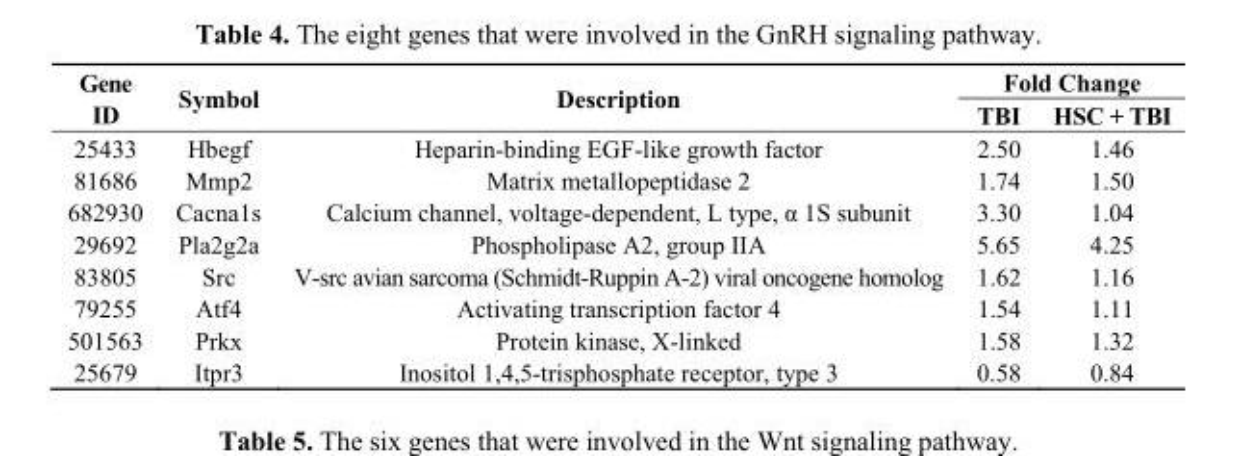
<table><thead><tr><td rowspan="2">Gene ID</td><td rowspan="2">Symbol</td><td rowspan="2">Description</td><td colspan="2">Fold Change</td></tr><tr><td>TBI</td><td>HSC + TBI</td></tr></thead><tbody><tr><td>25433</td><td>Hbegf</td><td>Heparin-binding EGF-like growth factor</td><td>2.50</td><td>1.46</td></tr><tr><td>81686</td><td>Mmp2</td><td>Matrix metallopeptidase 2</td><td>1.74</td><td>1.50</td></tr><tr><td>682930</td><td>Cacna1s</td><td>Calcium channel, voltage-dependent, L type, α 1S subunit</td><td>3.30</td><td>1.04</td></tr><tr><td>29692</td><td>Pla2g2a</td><td>Phospholipase A2, group IIA</td><td>5.65</td><td>4.25</td></tr><tr><td>83805</td><td>Src</td><td>V-src avian sarcoma (Schmidt-Ruppin A-2) viral oncogene homolog</td><td>1.62</td><td>1.16</td></tr><tr><td>79255</td><td>Atf4</td><td>Activating transcription factor 4</td><td>1.54</td><td>1.11</td></tr><tr><td>501563</td><td>Prkx</td><td>Protein kinase, X-linked</td><td>1.58</td><td>1.32</td></tr><tr><td>25679</td><td>Itpr3</td><td>Inositol 1,4,5-trisphosphate receptor, type 3</td><td>0.58</td><td>0.84</td></tr></tbody></table>